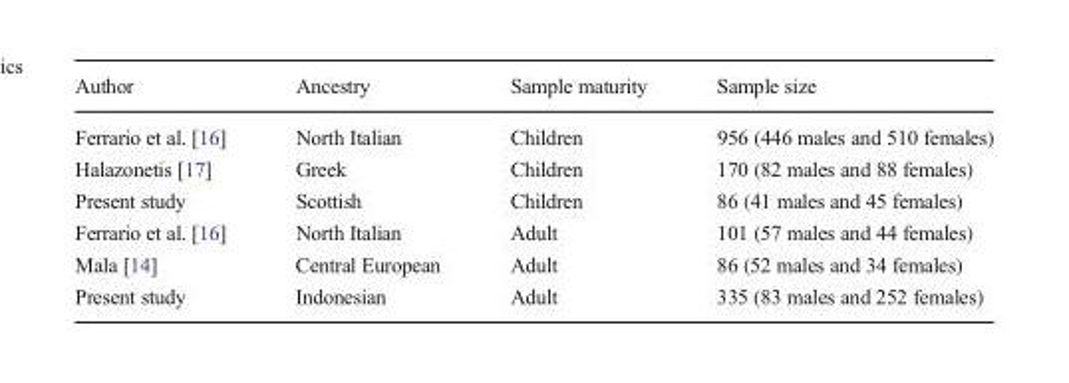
<table><thead><tr><td>Author</td><td>Ancestry</td><td>Sample maturity</td><td>Sample size</td></tr></thead><tbody><tr><td>Ferrario et al. [16]</td><td>North Italian</td><td>Children</td><td>956 (446 males and 510 females)</td></tr><tr><td>Halazonetis [17]</td><td>Greek</td><td>Children</td><td>170 (82 males and 88 females)</td></tr><tr><td>Present study</td><td>Scottish</td><td>Children</td><td>86 (41 males and 45 females)</td></tr><tr><td>Ferrario et al. [16]</td><td>North Italian</td><td>Adult</td><td>101 (57 males and 44 females)</td></tr><tr><td>Mala [14]</td><td>Central European</td><td>Adult</td><td>86 (52 males and 34 females)</td></tr><tr><td>Present study</td><td>Indonesian</td><td>Adult</td><td>335 (83 males and 252 females)</td></tr></tbody></table>